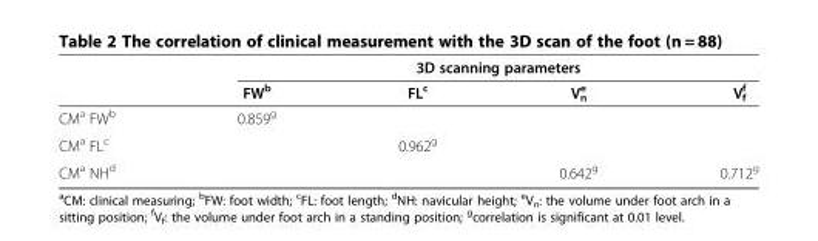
<table><thead><tr><td rowspan="2"></td><td colspan="4">3D scanning parameters</td></tr><tr><td>FW<sup>b</sup></td><td>FL<sup>c</sup></td><td>V<sub>n</sub> <sup>e</sup></td><td>V<sub>f</sub> <sup>f</sup></td></tr></thead><tbody><tr><td>CM<sup>a</sup> FW<sup>b</sup></td><td>0.859<sup>g</sup></td><td></td><td></td><td></td></tr><tr><td>CM<sup>a</sup> FL<sup>c</sup></td><td></td><td>0.962<sup>g</sup></td><td></td><td></td></tr><tr><td>CM<sup>a</sup> NH<sup>d</sup></td><td></td><td></td><td>0.642<sup>g</sup></td><td>0.712<sup>g</sup></td></tr></tbody></table>